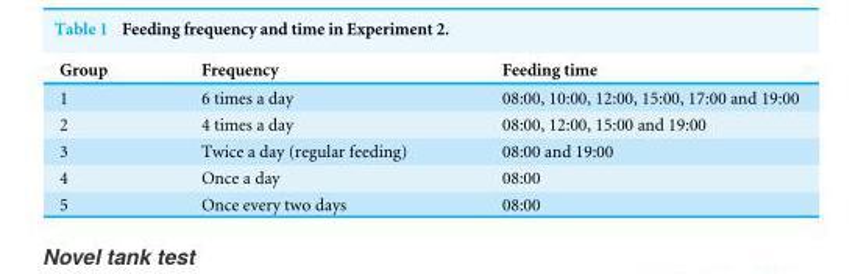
<table><thead><tr><td>Group</td><td>Frequency</td><td>Feeding time</td></tr></thead><tbody><tr><td>1</td><td>6 times a day</td><td>08:00, 10:00, 12:00, 15:00, 17:00 and 19:00</td></tr><tr><td>2</td><td>4 times a day</td><td>08:00, 12:00, 15:00 and 19:00</td></tr><tr><td>3</td><td>Twice a day (regular feeding)</td><td>08:00 and 19:00</td></tr><tr><td>4</td><td>Once a day</td><td>08:00</td></tr><tr><td>5</td><td>Once every two days</td><td>08:00</td></tr></tbody></table>